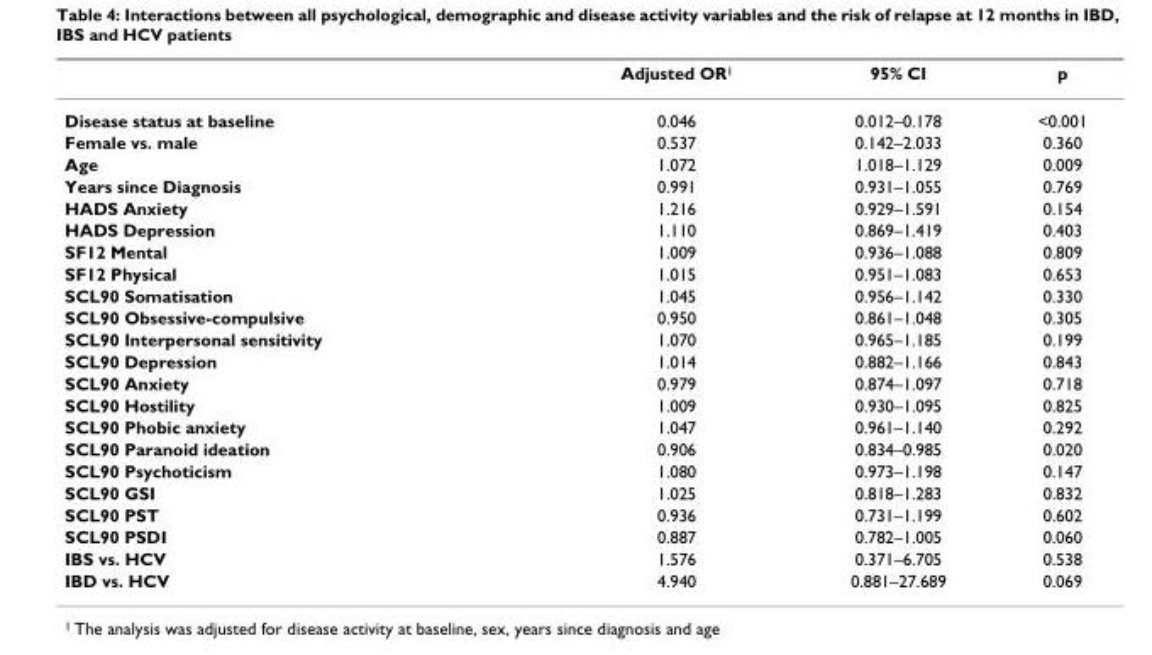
<table><thead><tr><td></td><td>Adjusted OR<sup>1</sup></td><td>95% CI</td><td>p</td></tr></thead><tbody><tr><td>Disease status at baseline</td><td>0.046</td><td>0.012–0.178</td><td>&lt;0.001</td></tr><tr><td>Female vs. male</td><td>0.537</td><td>0.142–2.033</td><td>0.360</td></tr><tr><td>Age</td><td>1.072</td><td>1.018–1.129</td><td>0.009</td></tr><tr><td>Years since Diagnosis</td><td>0.991</td><td>0.931–1.055</td><td>0.769</td></tr><tr><td>HADS Anxiety</td><td>1.216</td><td>0.929–1.591</td><td>0.154</td></tr><tr><td>HADS Depression</td><td>1.110</td><td>0.869–1.419</td><td>0.403</td></tr><tr><td>SF12 Mental</td><td>1.009</td><td>0.936–1.088</td><td>0.809</td></tr><tr><td>SF12 Physical</td><td>1.015</td><td>0.951–1.083</td><td>0.653</td></tr><tr><td>SCL90 Somatisation</td><td>1.045</td><td>0.956–1.142</td><td>0.330</td></tr><tr><td>SCL90 Obsessive-compulsive</td><td>0.950</td><td>0.861–1.048</td><td>0.305</td></tr><tr><td>SCL90 Interpersonal sensitivity</td><td>1.070</td><td>0.965–1.185</td><td>0.199</td></tr><tr><td>SCL90 Depression</td><td>1.014</td><td>0.882–1.166</td><td>0.843</td></tr><tr><td>SCL90 Anxiety</td><td>0.979</td><td>0.874–1.097</td><td>0.718</td></tr><tr><td>SCL90 Hostility</td><td>1.009</td><td>0.930–1.095</td><td>0.825</td></tr><tr><td>SCL90 Phobic anxiety</td><td>1.047</td><td>0.961–1.140</td><td>0.292</td></tr><tr><td>SCL90 Paranoid ideation</td><td>0.906</td><td>0.834–0.985</td><td>0.020</td></tr><tr><td>SCL90 Psychoticism</td><td>1.080</td><td>0.973–1.198</td><td>0.147</td></tr><tr><td>SCL90 GSI</td><td>1.025</td><td>0.818–1.283</td><td>0.832</td></tr><tr><td>SCL90 PST</td><td>0.936</td><td>0.731–1.199</td><td>0.602</td></tr><tr><td>SCL90 PSDI</td><td>0.887</td><td>0.782–1.005</td><td>0.060</td></tr><tr><td>IBS vs. HCV</td><td>1.576</td><td>0.371–6.705</td><td>0.538</td></tr><tr><td>IBD vs. HCV</td><td>4.940</td><td>0.881–27.689</td><td>0.069</td></tr></tbody></table>